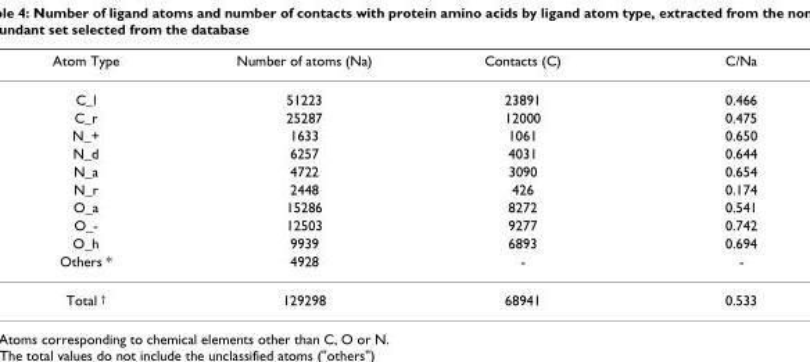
<table><thead><tr><td>Atom Type</td><td>Number of atoms (Na)</td><td>Contacts (C)</td><td>C/Na</td></tr></thead><tbody><tr><td>C_l</td><td>51223</td><td>23891</td><td>0.466</td></tr><tr><td>C_r</td><td>25287</td><td>12000</td><td>0.475</td></tr><tr><td>N_+</td><td>1633</td><td>1061</td><td>0.650</td></tr><tr><td>N_d</td><td>6257</td><td>4031</td><td>0.644</td></tr><tr><td>N_a</td><td>4722</td><td>3090</td><td>0.654</td></tr><tr><td>N_r</td><td>2448</td><td>426</td><td>0.174</td></tr><tr><td>O_a</td><td>15286</td><td>8272</td><td>0.541</td></tr><tr><td>O_-</td><td>12503</td><td>9277</td><td>0.742</td></tr><tr><td>O_h</td><td>9939</td><td>6893</td><td>0.694</td></tr><tr><td>Others *</td><td>4928</td><td>-</td><td>-</td></tr><tr><td>Total <sup>†</sup></td><td>129298</td><td>68941</td><td>0.533</td></tr></tbody></table>